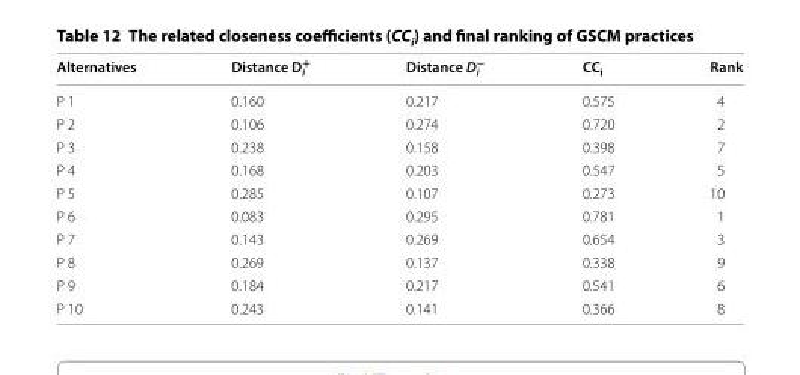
<table><thead><tr><td>Alternatives</td><td>Distance D<sub>i</sub> <sup>+</sup></td><td>Distance D<sub>i</sub> <sup>−</sup></td><td>CC<sub>i</sub></td><td>Rank</td></tr></thead><tbody><tr><td>P 1</td><td>0.160</td><td>0.217</td><td>0.575</td><td>4</td></tr><tr><td>P 2</td><td>0.106</td><td>0.274</td><td>0.720</td><td>2</td></tr><tr><td>P 3</td><td>0.238</td><td>0.158</td><td>0.398</td><td>7</td></tr><tr><td>P 4</td><td>0.168</td><td>0.203</td><td>0.547</td><td>5</td></tr><tr><td>P 5</td><td>0.285</td><td>0.107</td><td>0.273</td><td>10</td></tr><tr><td>P 6</td><td>0.083</td><td>0.295</td><td>0.781</td><td>1</td></tr><tr><td>P 7</td><td>0.143</td><td>0.269</td><td>0.654</td><td>3</td></tr><tr><td>P 8</td><td>0.269</td><td>0.137</td><td>0.338</td><td>9</td></tr><tr><td>P 9</td><td>0.184</td><td>0.217</td><td>0.541</td><td>6</td></tr><tr><td>P 10</td><td>0.243</td><td>0.141</td><td>0.366</td><td>8</td></tr></tbody></table>